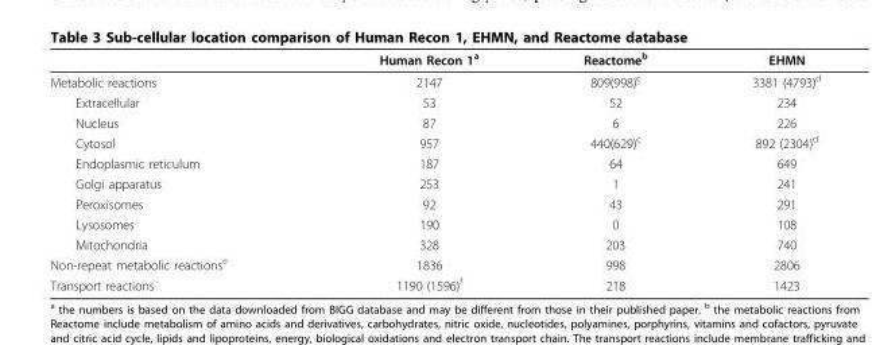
<table><thead><tr><td></td><td>Human Recon 1<sup>a</sup></td><td>Reactome<sup>b</sup></td><td>EHMN</td></tr></thead><tbody><tr><td>Metabolic reactions</td><td>2147</td><td>809(998)<sup>c</sup></td><td>3381 (4793)<sup>d</sup></td></tr><tr><td>Extracellular</td><td>53</td><td>52</td><td>234</td></tr><tr><td>Nucleus</td><td>87</td><td>6</td><td>226</td></tr><tr><td>Cytosol</td><td>957</td><td>440(629)<sup>c</sup></td><td>892 (2304)<sup>d</sup></td></tr><tr><td>Endoplasmic reticulum</td><td>187</td><td>64</td><td>649</td></tr><tr><td>Golgi apparatus</td><td>253</td><td>1</td><td>241</td></tr><tr><td>Peroxisomes</td><td>92</td><td>43</td><td>291</td></tr><tr><td>Lysosomes</td><td>190</td><td>0</td><td>108</td></tr><tr><td>Mitochondria</td><td>328</td><td>203</td><td>740</td></tr><tr><td>Non-repeat metabolic reactions<sup>e</sup></td><td>1836</td><td>998</td><td>2806</td></tr><tr><td>Transport reactions</td><td>1190 (1596)<sup>f</sup></td><td>218</td><td>1423</td></tr></tbody></table>